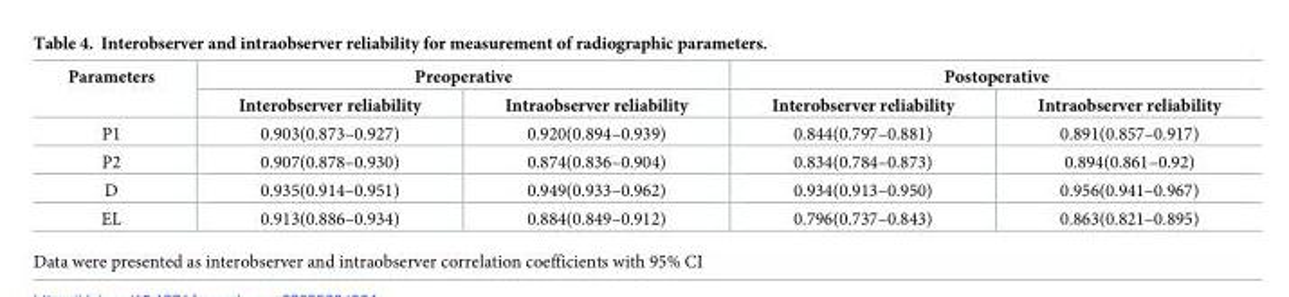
<table><thead><tr><td rowspan="2">Parameters</td><td colspan="2">Preoperative</td><td colspan="2">Postoperative</td></tr><tr><td>Interobserver reliability</td><td>Intraobserver reliability</td><td>Interobserver reliability</td><td>Intraobserver reliability</td></tr></thead><tbody><tr><td>P1</td><td>0.903(0.873–0.927)</td><td>0.920(0.894–0.939)</td><td>0.844(0.797–0.881)</td><td>0.891(0.857–0.917)</td></tr><tr><td>P2</td><td>0.907(0.878–0.930)</td><td>0.874(0.836–0.904)</td><td>0.834(0.784–0.873)</td><td>0.894(0.861–0.92)</td></tr><tr><td>D</td><td>0.935(0.914–0.951)</td><td>0.949(0.933–0.962)</td><td>0.934(0.913–0.950)</td><td>0.956(0.941–0.967)</td></tr><tr><td>EL</td><td>0.913(0.886–0.934)</td><td>0.884(0.849–0.912)</td><td>0.796(0.737–0.843)</td><td>0.863(0.821–0.895)</td></tr></tbody></table>